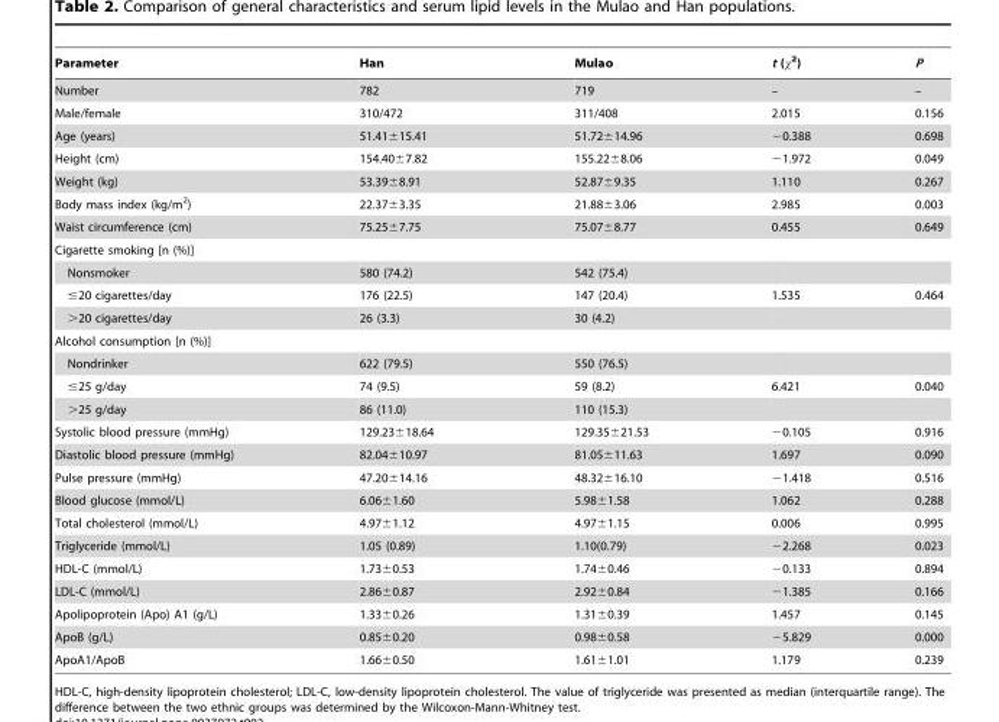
<table><thead><tr><td>Parameter</td><td>Han</td><td>Mulao</td><td>t (x2)</td><td>P</td></tr></thead><tbody><tr><td>Number</td><td>782</td><td>719</td><td>–</td><td>–</td></tr><tr><td>Male/female</td><td>310/472</td><td>311/408</td><td>2.015</td><td>0.156</td></tr><tr><td>Age (years)</td><td>51.41±15.41</td><td>51.72±14.96</td><td>−0.388</td><td>0.698</td></tr><tr><td>Height (cm)</td><td>154.40±7.82</td><td>155.22±8.06</td><td>−1.972</td><td>0.049</td></tr><tr><td>Weight (kg)</td><td>53.39±8.91</td><td>52.87±9.35</td><td>1.110</td><td>0.267</td></tr><tr><td>Body mass index (kg/m<sup>2</sup>)</td><td>22.37±3.35</td><td>21.88±3.06</td><td>2.985</td><td>0.003</td></tr><tr><td>Waist circumference (cm)</td><td>75.25±7.75</td><td>75.07±8.77</td><td>0.455</td><td>0.649</td></tr><tr><td colspan="5">Cigarette smoking [n (%)]</td></tr><tr><td>Nonsmoker</td><td>580 (74.2)</td><td>542 (75.4)</td><td></td><td></td></tr><tr><td>≤20 cigarettes/day</td><td>176 (22.5)</td><td>147 (20.4)</td><td>1.535</td><td>0.464</td></tr><tr><td>&gt;20 cigarettes/day</td><td>26 (3.3)</td><td>30 (4.2)</td><td></td><td></td></tr><tr><td colspan="5">Alcohol consumption [n (%)]</td></tr><tr><td>Nondrinker</td><td>622 (79.5)</td><td>550 (76.5)</td><td></td><td></td></tr><tr><td>≤25 g/day</td><td>74 (9.5)</td><td>59 (8.2)</td><td>6.421</td><td>0.040</td></tr><tr><td>&gt;25 g/day</td><td>86 (11.0)</td><td>110 (15.3)</td><td></td><td></td></tr><tr><td>Systolic blood pressure (mmHg)</td><td>129.23±18.64</td><td>129.35±21.53</td><td>−0.105</td><td>0.916</td></tr><tr><td>Diastolic blood pressure (mmHg)</td><td>82.04±10.97</td><td>81.05±11.63</td><td>1.697</td><td>0.090</td></tr><tr><td>Pulse pressure (mmHg)</td><td>47.20±14.16</td><td>48.32±16.10</td><td>−1.418</td><td>0.516</td></tr><tr><td>Blood glucose (mmol/L)</td><td>6.06±1.60</td><td>5.98±1.58</td><td>1.062</td><td>0.288</td></tr><tr><td>Total cholesterol (mmol/L)</td><td>4.97±1.12</td><td>4.97±1.15</td><td>0.006</td><td>0.995</td></tr><tr><td>Triglyceride (mmol/L)</td><td>1.05 (0.89)</td><td>1.10(0.79)</td><td>−2.268</td><td>0.023</td></tr><tr><td>HDL-C (mmol/L)</td><td>1.73±0.53</td><td>1.74±0.46</td><td>−0.133</td><td>0.894</td></tr><tr><td>LDL-C (mmol/L)</td><td>2.86±0.87</td><td>2.92±0.84</td><td>−1.385</td><td>0.166</td></tr><tr><td>Apolipoprotein (Apo) A1 (g/L)</td><td>1.33±0.26</td><td>1.31±0.39</td><td>1.457</td><td>0.145</td></tr><tr><td>ApoB (g/L)</td><td>0.85±0.20</td><td>0.98±0.58</td><td>−5.829</td><td>0.000</td></tr><tr><td>ApoA1/ApoB</td><td>1.66±0.50</td><td>1.61±1.01</td><td>1.179</td><td>0.239</td></tr></tbody></table>